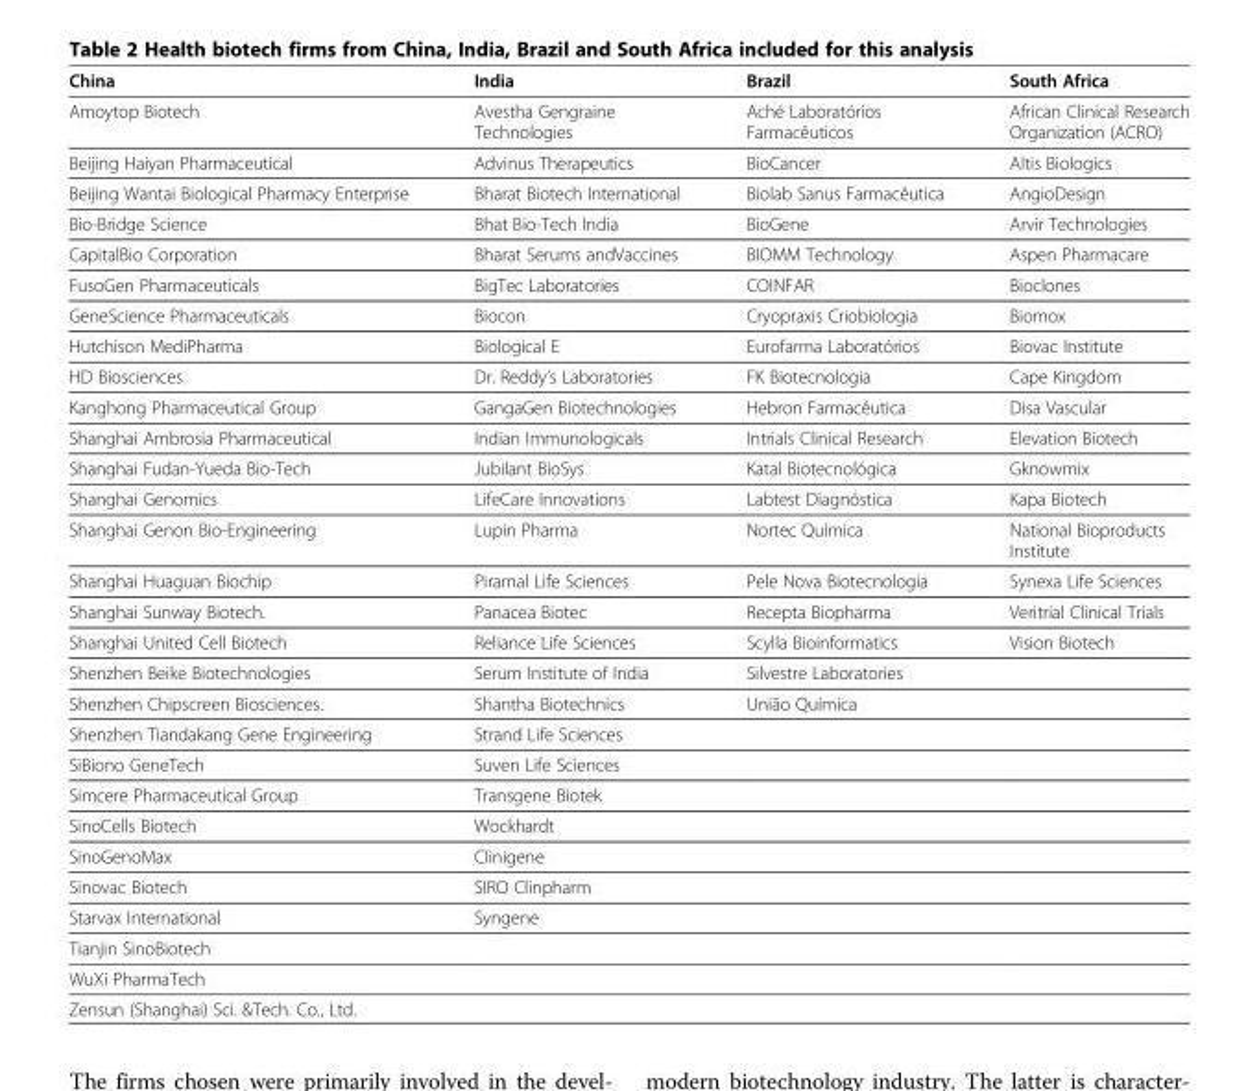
<table><thead><tr><td>China</td><td>India</td><td>Brazil</td><td>South Africa</td></tr></thead><tbody><tr><td>Amoytop Biotech</td><td>Avestha Gengraine Technologies</td><td>Aché Laboratórios Farmacêuticos</td><td>African Clinical Research Organization (ACRO)</td></tr><tr><td>Beijing Haiyan Pharmaceutical</td><td>Advinus Therapeutics</td><td>BioCancer</td><td>Altis Biologics</td></tr><tr><td>Beijing Wantai Biological Pharmacy Enterprise</td><td>Bharat Biotech International</td><td>Biolab Sanus Farmacêutica</td><td>AngioDesign</td></tr><tr><td>Bio-Bridge Science</td><td>Bhat Bio-Tech India</td><td>BioGene</td><td>Arvir Technologies</td></tr><tr><td>CapitalBio Corporation</td><td>Bharat Serums andVaccines</td><td>BIOMM Technology</td><td>Aspen Pharmacare</td></tr><tr><td>FusoGen Pharmaceuticals</td><td>BigTec Laboratories</td><td>COINFAR</td><td>Bioclones</td></tr><tr><td>GeneScience Pharmaceuticals</td><td>Biocon</td><td>Cryopraxis Criobiologia</td><td>Biomox</td></tr><tr><td>Hutchison MediPharma</td><td>Biological E</td><td>Eurofarma Laboratórios</td><td>Biovac Institute</td></tr><tr><td>HD Biosciences</td><td>Dr. Reddy’s Laboratories</td><td>FK Biotecnologia</td><td>Cape Kingdom</td></tr><tr><td>Kanghong Pharmaceutical Group</td><td>GangaGen Biotechnologies</td><td>Hebron Farmacêutica</td><td>Disa Vascular</td></tr><tr><td>Shanghai Ambrosia Pharmaceutical</td><td>Indian Immunologicals</td><td>Intrials Clinical Research</td><td>Elevation Biotech</td></tr><tr><td>Shanghai Fudan-Yueda Bio-Tech</td><td>Jubilant BioSys</td><td>Katal Biotecnológica</td><td>Gknowmix</td></tr><tr><td>Shanghai Genomics</td><td>LifeCare Innovations</td><td>Labtest Diagnóstica</td><td>Kapa Biotech</td></tr><tr><td>Shanghai Genon Bio-Engineering</td><td>Lupin Pharma</td><td>Nortec Química</td><td>National Bioproducts Institute</td></tr><tr><td>Shanghai Huaguan Biochip</td><td>Piramal Life Sciences</td><td>Pele Nova Biotecnologia</td><td>Synexa Life Sciences</td></tr><tr><td>Shanghai Sunway Biotech.</td><td>Panacea Biotec</td><td>Recepta Biopharma</td><td>Veritrial Clinical Trials</td></tr><tr><td>Shanghai United Cell Biotech</td><td>Reliance Life Sciences</td><td>Scylla Bioinformatics</td><td>Vision Biotech</td></tr><tr><td>Shenzhen Beike Biotechnologies</td><td>Serum Institute of India</td><td>Silvestre Laboratories</td><td></td></tr><tr><td>Shenzhen Chipscreen Biosciences.</td><td>Shantha Biotechnics</td><td>União Química</td><td></td></tr><tr><td>Shenzhen Tiandakang Gene Engineering</td><td>Strand Life Sciences</td><td></td><td></td></tr><tr><td>SiBiono GeneTech</td><td>Suven Life Sciences</td><td></td><td></td></tr><tr><td>Simcere Pharmaceutical Group</td><td>Transgene Biotek</td><td></td><td></td></tr><tr><td>SinoCells Biotech</td><td>Wockhardt</td><td></td><td></td></tr><tr><td>SinoGenoMax</td><td>Clinigene</td><td></td><td></td></tr><tr><td>Sinovac Biotech</td><td>SIRO Clinpharm</td><td></td><td></td></tr><tr><td>Starvax International</td><td>Syngene</td><td></td><td></td></tr><tr><td colspan="4">Tianjin SinoBiotech</td></tr><tr><td colspan="4">WuXi PharmaTech</td></tr><tr><td>Zensun (Shanghai) Sci. &amp;Tech. Co., Ltd.</td><td></td><td></td><td></td></tr></tbody></table>